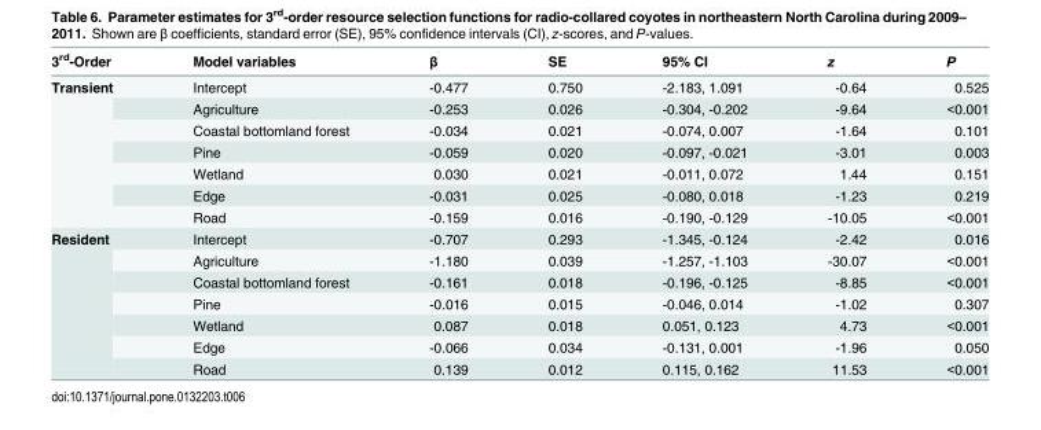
<table><thead><tr><td>3<sup>rd</sup>-Order</td><td>Model variables</td><td>β</td><td>SE</td><td>95% CI</td><td>z</td><td>P</td></tr></thead><tbody><tr><td rowspan="7">Transient</td><td>Intercept</td><td>-0.477</td><td>0.750</td><td>-2.183, 1.091</td><td>-0.64</td><td>0.525</td></tr><tr><td>Agriculture</td><td>-0.253</td><td>0.026</td><td>-0.304, -0.202</td><td>-9.64</td><td>&lt;0.001</td></tr><tr><td>Coastal bottomland forest</td><td>-0.034</td><td>0.021</td><td>-0.074, 0.007</td><td>-1.64</td><td>0.101</td></tr><tr><td>Pine</td><td>-0.059</td><td>0.020</td><td>-0.097, -0.021</td><td>-3.01</td><td>0.003</td></tr><tr><td>Wetland</td><td>0.030</td><td>0.021</td><td>-0.011, 0.072</td><td>1.44</td><td>0.151</td></tr><tr><td>Edge</td><td>-0.031</td><td>0.025</td><td>-0.080, 0.018</td><td>-1.23</td><td>0.219</td></tr><tr><td>Road</td><td>-0.159</td><td>0.016</td><td>-0.190, -0.129</td><td>-10.05</td><td>&lt;0.001</td></tr><tr><td rowspan="7">Resident</td><td>Intercept</td><td>-0.707</td><td>0.293</td><td>-1.345, -0.124</td><td>-2.42</td><td>0.016</td></tr><tr><td>Agriculture</td><td>-1.180</td><td>0.039</td><td>-1.257, -1.103</td><td>-30.07</td><td>&lt;0.001</td></tr><tr><td>Coastal bottomland forest</td><td>-0.161</td><td>0.018</td><td>-0.196, -0.125</td><td>-8.85</td><td>&lt;0.001</td></tr><tr><td>Pine</td><td>-0.016</td><td>0.015</td><td>-0.046, 0.014</td><td>-1.02</td><td>0.307</td></tr><tr><td>Wetland</td><td>0.087</td><td>0.018</td><td>0.051, 0.123</td><td>4.73</td><td>&lt;0.001</td></tr><tr><td>Edge</td><td>-0.066</td><td>0.034</td><td>-0.131, 0.001</td><td>-1.96</td><td>0.050</td></tr><tr><td>Road</td><td>0.139</td><td>0.012</td><td>0.115, 0.162</td><td>11.53</td><td>&lt;0.001</td></tr></tbody></table>